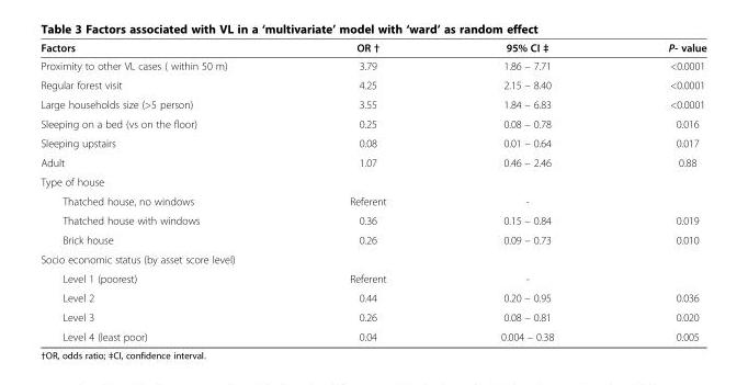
<table><thead><tr><td>Factors</td><td>OR †</td><td>95% CI ‡</td><td>P- value</td></tr></thead><tbody><tr><td>Proximity to other VL cases ( within 50 m)</td><td>3.79</td><td>1.86 – 7.71</td><td>&lt;0.0001</td></tr><tr><td>Regular forest visit</td><td>4.25</td><td>2.15 – 8.40</td><td>&lt;0.0001</td></tr><tr><td>Large households size (&gt;5 person)</td><td>3.55</td><td>1.84 – 6.83</td><td>&lt;0.0001</td></tr><tr><td>Sleeping on a bed (vs on the floor)</td><td>0.25</td><td>0.08 – 0.78</td><td>0.016</td></tr><tr><td>Sleeping upstairs</td><td>0.08</td><td>0.01 – 0.64</td><td>0.017</td></tr><tr><td>Adult</td><td>1.07</td><td>0.46 – 2.46</td><td>0.88</td></tr><tr><td colspan="4">Type of house</td></tr><tr><td>Thatched house, no windows</td><td>Referent</td><td>-</td><td></td></tr><tr><td>Thatched house with windows</td><td>0.36</td><td>0.15 – 0.84</td><td>0.019</td></tr><tr><td>Brick house</td><td>0.26</td><td>0.09 – 0.73</td><td>0.010</td></tr><tr><td colspan="4">Socio economic status (by asset score level)</td></tr><tr><td>Level 1 (poorest)</td><td>Referent</td><td>-</td><td></td></tr><tr><td>Level 2</td><td>0.44</td><td>0.20 – 0.95</td><td>0.036</td></tr><tr><td>Level 3</td><td>0.26</td><td>0.08 – 0.81</td><td>0.020</td></tr><tr><td>Level 4 (least poor)</td><td>0.04</td><td>0.004 – 0.38</td><td>0.005</td></tr></tbody></table>